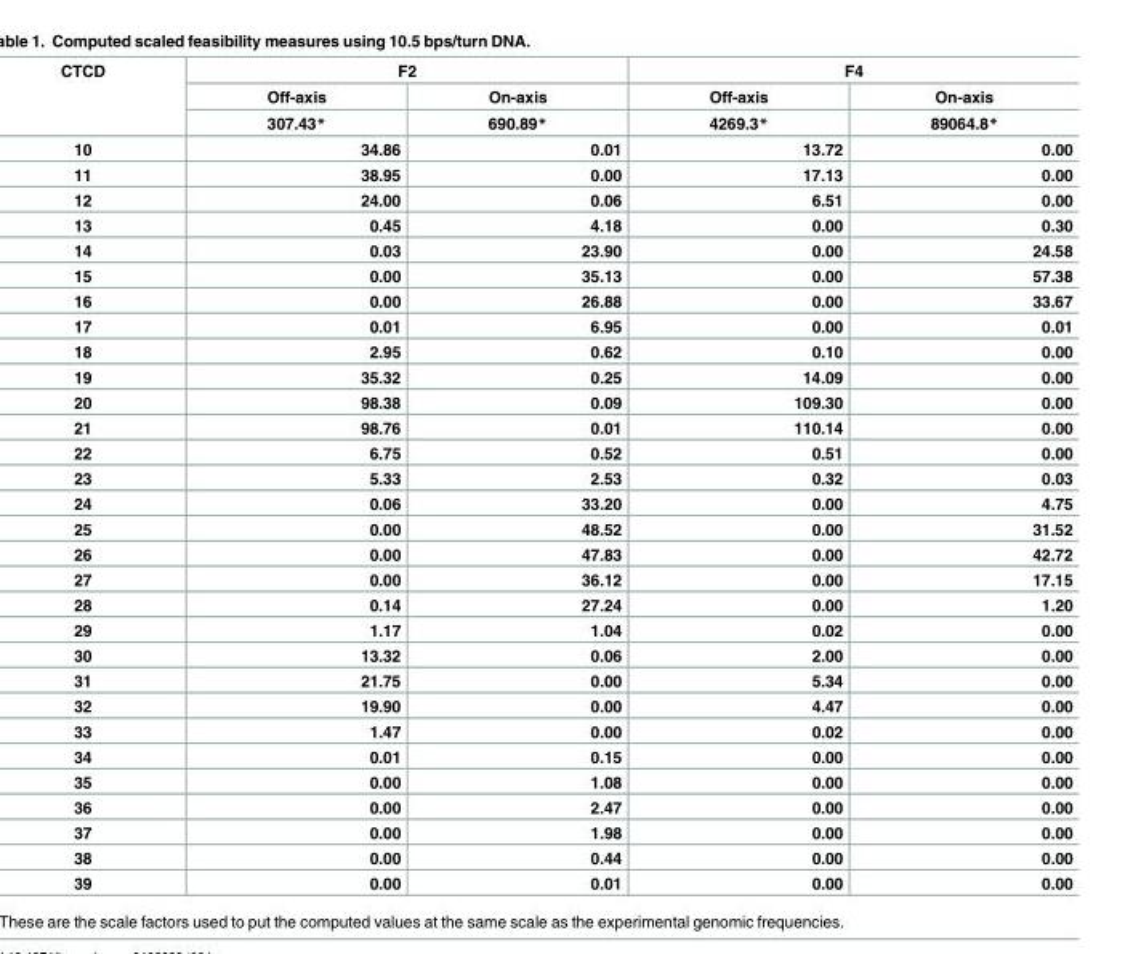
<table><thead><tr><td rowspan="3">CTCD</td><td colspan="2">F2</td><td colspan="2">F4</td></tr><tr><td rowspan="2">Off-axis 307.43*</td><td rowspan="2">On-axis 690.89*</td><td rowspan="2">Off-axis 4269.3*</td><td rowspan="2">On-axis 89064.8*</td></tr><tr></tr></thead><tbody><tr><td>10</td><td>34.86</td><td>0.01</td><td>13.72</td><td>0.00</td></tr><tr><td>11</td><td>38.95</td><td>0.00</td><td>17.13</td><td>0.00</td></tr><tr><td>12</td><td>24.00</td><td>0.06</td><td>6.51</td><td>0.00</td></tr><tr><td>13</td><td>0.45</td><td>4.18</td><td>0.00</td><td>0.30</td></tr><tr><td>14</td><td>0.03</td><td>23.90</td><td>0.00</td><td>24.58</td></tr><tr><td>15</td><td>0.00</td><td>35.13</td><td>0.00</td><td>57.38</td></tr><tr><td>16</td><td>0.00</td><td>26.88</td><td>0.00</td><td>33.67</td></tr><tr><td>17</td><td>0.01</td><td>6.95</td><td>0.00</td><td>0.01</td></tr><tr><td>18</td><td>2.95</td><td>0.62</td><td>0.10</td><td>0.00</td></tr><tr><td>19</td><td>35.32</td><td>0.25</td><td>14.09</td><td>0.00</td></tr><tr><td>20</td><td>98.38</td><td>0.09</td><td>109.30</td><td>0.00</td></tr><tr><td>21</td><td>98.76</td><td>0.01</td><td>110.14</td><td>0.00</td></tr><tr><td>22</td><td>6.75</td><td>0.52</td><td>0.51</td><td>0.00</td></tr><tr><td>23</td><td>5.33</td><td>2.53</td><td>0.32</td><td>0.03</td></tr><tr><td>24</td><td>0.06</td><td>33.20</td><td>0.00</td><td>4.75</td></tr><tr><td>25</td><td>0.00</td><td>48.52</td><td>0.00</td><td>31.52</td></tr><tr><td>26</td><td>0.00</td><td>47.83</td><td>0.00</td><td>42.72</td></tr><tr><td>27</td><td>0.00</td><td>36.12</td><td>0.00</td><td>17.15</td></tr><tr><td>28</td><td>0.14</td><td>27.24</td><td>0.00</td><td>1.20</td></tr><tr><td>29</td><td>1.17</td><td>1.04</td><td>0.02</td><td>0.00</td></tr><tr><td>30</td><td>13.32</td><td>0.06</td><td>2.00</td><td>0.00</td></tr><tr><td>31</td><td>21.75</td><td>0.00</td><td>5.34</td><td>0.00</td></tr><tr><td>32</td><td>19.90</td><td>0.00</td><td>4.47</td><td>0.00</td></tr><tr><td>33</td><td>1.47</td><td>0.00</td><td>0.02</td><td>0.00</td></tr><tr><td>34</td><td>0.01</td><td>0.15</td><td>0.00</td><td>0.00</td></tr><tr><td>35</td><td>0.00</td><td>1.08</td><td>0.00</td><td>0.00</td></tr><tr><td>36</td><td>0.00</td><td>2.47</td><td>0.00</td><td>0.00</td></tr><tr><td>37</td><td>0.00</td><td>1.98</td><td>0.00</td><td>0.00</td></tr><tr><td>38</td><td>0.00</td><td>0.44</td><td>0.00</td><td>0.00</td></tr><tr><td>39</td><td>0.00</td><td>0.01</td><td>0.00</td><td>0.00</td></tr></tbody></table>